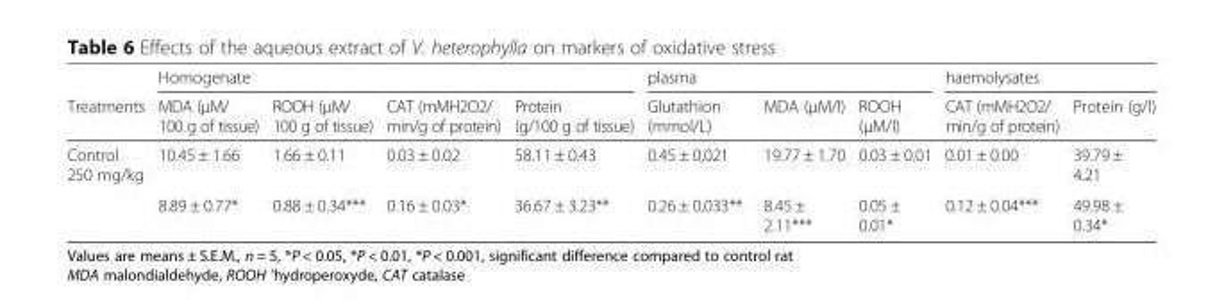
<table><thead><tr><td rowspan="2">Treatments</td><td colspan="4">Homogenate</td><td colspan="3">plasma</td><td colspan="2">haemolysates</td></tr><tr><td>MDA (μM/ 100 g of tissue)</td><td>ROOH (μM/ 100 g of tissue)</td><td>CAT (mMH2O2/ min/g of protein)</td><td>Protein (g/100 g of tissue)</td><td>Glutathion (mmol/L)</td><td>MDA (μM/l)</td><td>ROOH (μM/l)</td><td>CAT (mMH2O2/ min/g of protein)</td><td>Protein (g/l)</td></tr></thead><tbody><tr><td rowspan="2">Control 250 mg/kg</td><td>10.45 ± 1.66</td><td>1.66 ± 0.11</td><td>0.03 ± 0.02</td><td>58.11 ± 0.43</td><td>0.45 ± 0,021</td><td>19.77 ± 1.70</td><td>0.03 ± 0.01</td><td>0.01 ± 0.00</td><td>39.79 ± 4.21</td></tr><tr><td>8.89 ± 0.77*</td><td>0.88 ± 0.34***</td><td>0.16 ± 0.03*</td><td>36.67 ± 3.23**</td><td>0.26 ± 0,033**</td><td>8.45 ± 2.11***</td><td>0.05 ± 0.01*</td><td>0.12 ± 0.04***</td><td>49.98 ± 0.34*</td></tr></tbody></table>